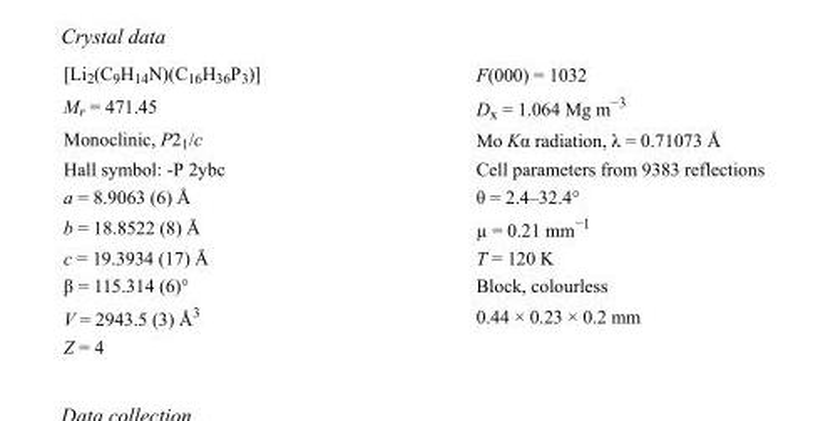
<table><tbody><tr><td>[Li<sub>2</sub>(C<sub>9</sub>H<sub>14</sub>N)(C<sub>16</sub>H<sub>36</sub>P<sub>3</sub>)]</td><td>F(000) = 1032</td></tr><tr><td>M<sub>r</sub> = 471.45</td><td>D<sub>x</sub> = 1.064 Mg m<sup>−3</sup></td></tr><tr><td>Monoclinic, P2<sub>1</sub>/c</td><td>Mo Kα radiation, λ = 0.71073 Å</td></tr><tr><td>Hall symbol: -P 2ybc</td><td>Cell parameters from 9383 reflections</td></tr><tr><td>a = 8.9063 (6) Å</td><td>θ = 2.4–32.4°</td></tr><tr><td>b = 18.8522 (8) Å</td><td>µ = 0.21 mm<sup>−1</sup></td></tr><tr><td>c = 19.3934 (17) Å</td><td>T = 120 K</td></tr><tr><td>β = 115.314 (6)°</td><td>Block, colourless</td></tr><tr><td>V = 2943.5 (3) Å<sup>3</sup></td><td>0.44 × 0.23 × 0.2 mm</td></tr><tr><td>Z = 4</td><td></td></tr></tbody></table>